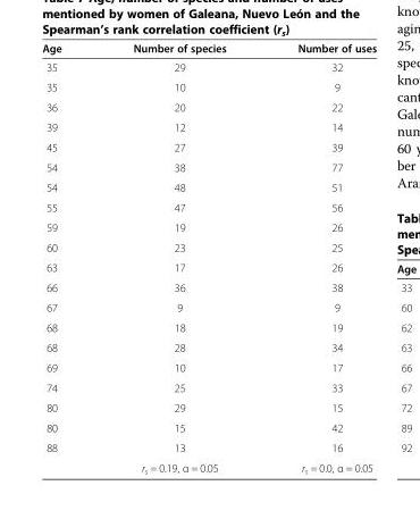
<table><thead><tr><td>Age</td><td>Number of species</td><td>Number of uses</td></tr></thead><tbody><tr><td>35</td><td>29</td><td>32</td></tr><tr><td>35</td><td>10</td><td>9</td></tr><tr><td>36</td><td>20</td><td>22</td></tr><tr><td>39</td><td>12</td><td>14</td></tr><tr><td>45</td><td>27</td><td>39</td></tr><tr><td>54</td><td>38</td><td>77</td></tr><tr><td>54</td><td>48</td><td>51</td></tr><tr><td>55</td><td>47</td><td>56</td></tr><tr><td>59</td><td>19</td><td>26</td></tr><tr><td>60</td><td>23</td><td>25</td></tr><tr><td>63</td><td>17</td><td>26</td></tr><tr><td>66</td><td>36</td><td>38</td></tr><tr><td>67</td><td>9</td><td>9</td></tr><tr><td>68</td><td>18</td><td>19</td></tr><tr><td>68</td><td>28</td><td>34</td></tr><tr><td>69</td><td>10</td><td>17</td></tr><tr><td>74</td><td>25</td><td>33</td></tr><tr><td>80</td><td>29</td><td>15</td></tr><tr><td>80</td><td>15</td><td>42</td></tr><tr><td rowspan="2">88</td><td>13</td><td>16</td></tr><tr><td>r<sub>s</sub> = 0.19, α = 0.05</td><td>r<sub>s</sub> = 0.0, α = 0.05</td></tr></tbody></table>